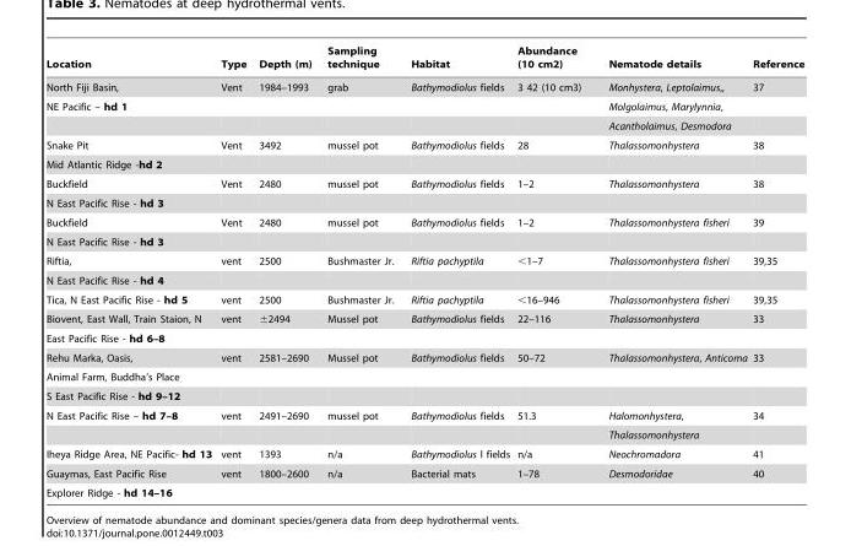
<table><thead><tr><td>Location</td><td>Type</td><td>Depth (m)</td><td>Sampling technique</td><td>Habitat</td><td>Abundance (10 cm2)</td><td>Nematode details</td><td>Reference</td></tr></thead><tbody><tr><td>North Fiji Basin,</td><td>Vent</td><td>1984–1993</td><td>grab</td><td>Bathymodiolus fields</td><td>3 42 (10 cm3)</td><td>Monhystera, Leptolaimus,,</td><td>37</td></tr><tr><td rowspan="2">NE Pacific – hd 1</td><td></td><td></td><td></td><td></td><td></td><td>Molgolaimus, Marylynnia,</td><td></td></tr><tr><td></td><td></td><td></td><td></td><td></td><td>Acantholaimus, Desmodora</td><td></td></tr><tr><td>Snake Pit</td><td>Vent</td><td>3492</td><td>mussel pot</td><td>Bathymodiolus fields</td><td>28</td><td>Thalassomonhystera</td><td>38</td></tr><tr><td colspan="8">Mid Atlantic Ridge -hd 2</td></tr><tr><td>Buckfield</td><td>Vent</td><td>2480</td><td>mussel pot</td><td>Bathymodiolus fields</td><td>1–2</td><td>Thalassomonhystera</td><td>38</td></tr><tr><td colspan="8">N East Pacific Rise - hd 3</td></tr><tr><td>Buckfield</td><td>Vent</td><td>2480</td><td>mussel pot</td><td>Bathymodiolus fields</td><td>1–2</td><td>Thalassomonhystera fisheri</td><td>39</td></tr><tr><td colspan="8">N East Pacific Rise - hd 3</td></tr><tr><td>Riftia,</td><td>vent</td><td>2500</td><td>Bushmaster Jr.</td><td>Riftia pachyptila</td><td>&lt;1–7</td><td>Thalassomonhystera fisheri</td><td>39,35</td></tr><tr><td colspan="8">N East Pacific Rise - hd 4</td></tr><tr><td>Tica, N East Pacific Rise - hd 5</td><td>vent</td><td>2500</td><td>Bushmaster Jr.</td><td>Riftia pachyptila</td><td>&lt;16–946</td><td>Thalassomonhystera fisheri</td><td>39,35</td></tr><tr><td>Biovent, East Wall, Train Staion, N</td><td>vent</td><td>±2494</td><td>Mussel pot</td><td>Bathymodiolus fields</td><td>22–116</td><td>Thalassomonhystera</td><td>33</td></tr><tr><td colspan="8">East Pacific Rise - hd 6–8</td></tr><tr><td>Rehu Marka, Oasis,</td><td>vent</td><td>2581–2690</td><td>Mussel pot</td><td>Bathymodiolus fields</td><td>50–72</td><td>Thalassomonhystera, Anticoma</td><td>33</td></tr><tr><td colspan="8">Animal Farm, Buddha’s Place</td></tr><tr><td colspan="8">S East Pacific Rise - hd 9–12</td></tr><tr><td rowspan="2">N East Pacific Rise – hd 7–8</td><td>vent</td><td>2491–2690</td><td>mussel pot</td><td>Bathymodiolus fields</td><td>51.3</td><td>Halomonhystera,</td><td>34</td></tr><tr><td></td><td></td><td></td><td></td><td></td><td>Thalassomonhystera</td><td></td></tr><tr><td>Iheya Ridge Area, NE Pacific- hd 13</td><td>vent</td><td>1393</td><td>n/a</td><td>Bathymodiolus l fields</td><td>n/a</td><td>Neochromadora</td><td>41</td></tr><tr><td>Guaymas, East Pacific Rise</td><td>vent</td><td>1800–2600</td><td>n/a</td><td>Bacterial mats</td><td>1–78</td><td>Desmodoridae</td><td>40</td></tr><tr><td>Explorer Ridge - hd 14–16</td><td></td><td></td><td></td><td></td><td></td><td></td><td></td></tr></tbody></table>